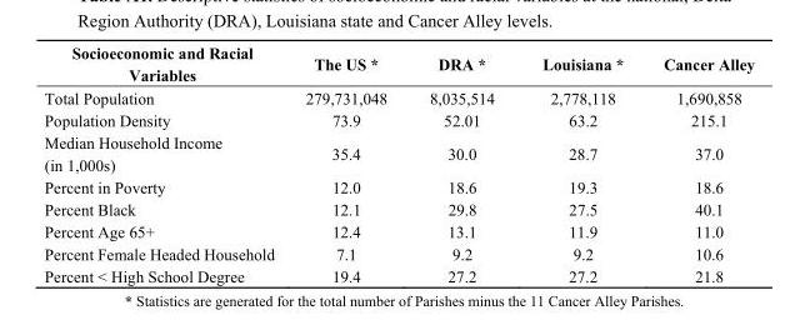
<table><thead><tr><td>Socioeconomic and Racial Variables</td><td>The US *</td><td>DRA *</td><td>Louisiana *</td><td>Cancer Alley</td></tr></thead><tbody><tr><td>Total Population</td><td>279,731,048</td><td>8,035,514</td><td>2,778,118</td><td>1,690,858</td></tr><tr><td>Population Density</td><td>73.9</td><td>52.01</td><td>63.2</td><td>215.1</td></tr><tr><td>Median Household Income (in 1,000s)</td><td>35.4</td><td>30.0</td><td>28.7</td><td>37.0</td></tr><tr><td>Percent in Poverty</td><td>12.0</td><td>18.6</td><td>19.3</td><td>18.6</td></tr><tr><td>Percent Black</td><td>12.1</td><td>29.8</td><td>27.5</td><td>40.1</td></tr><tr><td>Percent Age 65+</td><td>12.4</td><td>13.1</td><td>11.9</td><td>11.0</td></tr><tr><td>Percent Female Headed Household</td><td>7.1</td><td>9.2</td><td>9.2</td><td>10.6</td></tr><tr><td>Percent &lt; High School Degree</td><td>19.4</td><td>27.2</td><td>27.2</td><td>21.8</td></tr></tbody></table>